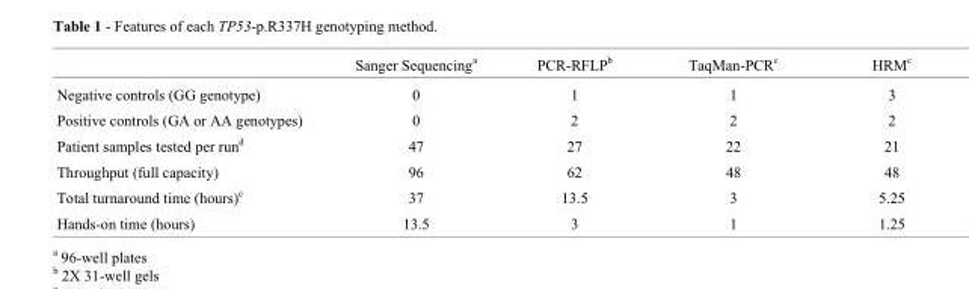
<table><thead><tr><td></td><td>Sanger Sequencing<sup>a</sup></td><td>PCR-RFLP<sup>b</sup></td><td>TaqMan-PCR<sup>c</sup></td><td>HRM<sup>c</sup></td></tr></thead><tbody><tr><td>Negative controls (GG genotype)</td><td>0</td><td>1</td><td>1</td><td>3</td></tr><tr><td>Positive controls (GA or AA genotypes)</td><td>0</td><td>2</td><td>2</td><td>2</td></tr><tr><td>Patient samples tested per run<sup>d</sup></td><td>47</td><td>27</td><td>22</td><td>21</td></tr><tr><td>Throughput (full capacity)</td><td>96</td><td>62</td><td>48</td><td>48</td></tr><tr><td>Total turnaround time (hours)<sup>e</sup></td><td>37</td><td>13.5</td><td>3</td><td>5.25</td></tr><tr><td>Hands-on time (hours)</td><td>13.5</td><td>3</td><td>1</td><td>1.25</td></tr></tbody></table>